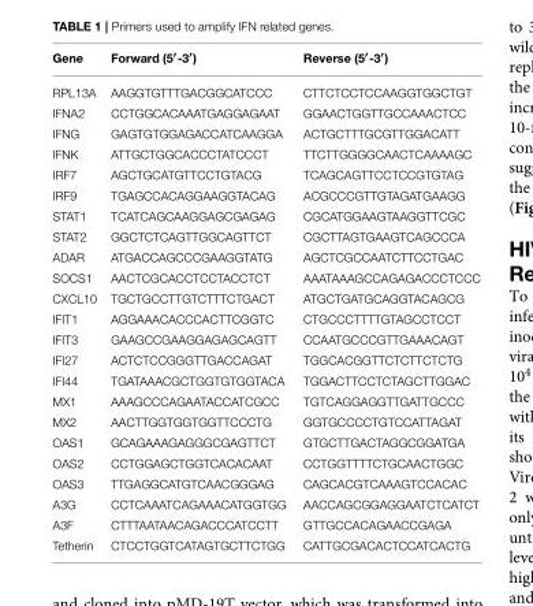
<table><thead><tr><td>Gene</td><td>Forward (5<sup>′</sup>-3<sup>′</sup>)</td><td>Reverse (5<sup>′</sup>-3<sup>′</sup>)</td></tr></thead><tbody><tr><td>RPL13A</td><td>AAGGTGTTTGACGGCATCCC</td><td>CTTCTCCTCCAAGGTGGCTGT</td></tr><tr><td>IFNA2</td><td>CCTGGCACAAATGAGGAGAAT</td><td>GGAACTGGTTGCCAAACTCC</td></tr><tr><td>IFNG</td><td>GAGTGTGGAGACCATCAAGGA</td><td>ACTGCTTTGCGTTGGACATT</td></tr><tr><td>IFNK</td><td>ATTGCTGGCACCCTATCCCT</td><td>TTCTTGGGGCAACTCAAAAGC</td></tr><tr><td>IRF7</td><td>AGCTGCATGTTCCTGTACG</td><td>TCAGCAGTTCCTCCGTGTAG</td></tr><tr><td>IRF9</td><td>TGAGCCACAGGAAGGTACAG</td><td>ACGCCCGTTGTAGATGAAGG</td></tr><tr><td>STAT1</td><td>TCATCAGCAAGGAGCGAGAG</td><td>CGCATGGAAGTAAGGTTCGC</td></tr><tr><td>STAT2</td><td>GGCTCTCAGTTGGCAGTTCT</td><td>CGCTTAGTGAAGTCAGCCCA</td></tr><tr><td>ADAR</td><td>ATGACCAGCCCGAAGGTATG</td><td>AGCTCGCCAATCTTCCTGAC</td></tr><tr><td>SOCS1</td><td>AACTCGCACCTCCTACCTCT</td><td>AAATAAAGCCAGAGACCCTCCC</td></tr><tr><td>CXCL10</td><td>TGCTGCCTTGTCTTTCTGACT</td><td>ATGCTGATGCAGGTACAGCG</td></tr><tr><td>IFIT1</td><td>AGGAAACACCCACTTCGGTC</td><td>CTGCCCTTTTGTAGCCTCCT</td></tr><tr><td>IFIT3</td><td>GAAGCCGAAGGAGAGCAGTT</td><td>CCAATGCCCGTTGAAACAGT</td></tr><tr><td>IFI27</td><td>ACTCTCCGGGTTGACCAGAT</td><td>TGGCACGGTTCTCTTCTCTG</td></tr><tr><td>IFI44</td><td>TGATAAACGCTGGTGTGGTACA</td><td>TGGACTTCCTCTAGCTTGGAC</td></tr><tr><td>MX1</td><td>AAAGCCCAGAATACCATCGCC</td><td>TGTCAGGAGGTTGATTGCCC</td></tr><tr><td>MX2</td><td>AACTTGGTGGTGGTTCCCTG</td><td>GGTGCCCCTGTCCATTAGAT</td></tr><tr><td>OAS1</td><td>GCAGAAAGAGGGCGAGTTCT</td><td>GTGCTTGACTAGGCGGATGA</td></tr><tr><td>OAS2</td><td>CCTGGAGCTGGTCACACAAT</td><td>CCTGGTTTTCTGCAACTGGC</td></tr><tr><td>OAS3</td><td>TTGAGGCATGTCAACGGGAG</td><td>CAGCACGTCAAAGTCCACAC</td></tr><tr><td>A3G</td><td>CCTCAAATCAGAAACATGGTGG</td><td>AACCAGCGGAGGAATCTCATCT</td></tr><tr><td>A3F</td><td>CTTTAATAACAGACCCATCCTT</td><td>GTTGCCACAGAACCGAGA</td></tr><tr><td>Tetherin</td><td>CTCCTGGTCATAGTGCTTCTGG</td><td>CATTGCGACACTCCATCACTG</td></tr></tbody></table>